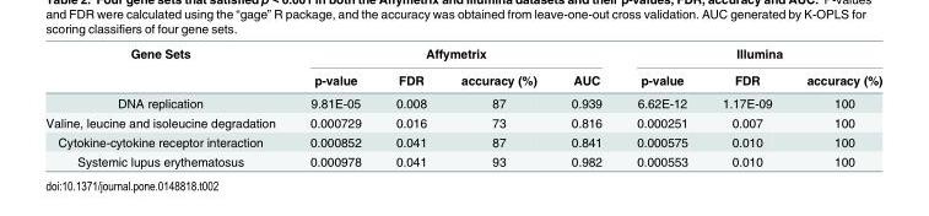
<table><thead><tr><td rowspan="2">Gene Sets</td><td colspan="4">Affymetrix</td><td colspan="3">Illumina</td></tr><tr><td>p-value</td><td>FDR</td><td>accuracy (%)</td><td>AUC</td><td>p-value</td><td>FDR</td><td>accuracy (%)</td></tr></thead><tbody><tr><td>DNA replication</td><td>9.81E-05</td><td>0.008</td><td>87</td><td>0.939</td><td>6.62E-12</td><td>1.17E-09</td><td>100</td></tr><tr><td>Valine, leucine and isoleucine degradation</td><td>0.000729</td><td>0.016</td><td>73</td><td>0.816</td><td>0.000251</td><td>0.007</td><td>100</td></tr><tr><td>Cytokine-cytokine receptor interaction</td><td>0.000852</td><td>0.041</td><td>87</td><td>0.841</td><td>0.000575</td><td>0.010</td><td>100</td></tr><tr><td>Systemic lupus erythematosus</td><td>0.000978</td><td>0.041</td><td>93</td><td>0.982</td><td>0.000553</td><td>0.010</td><td>100</td></tr></tbody></table>